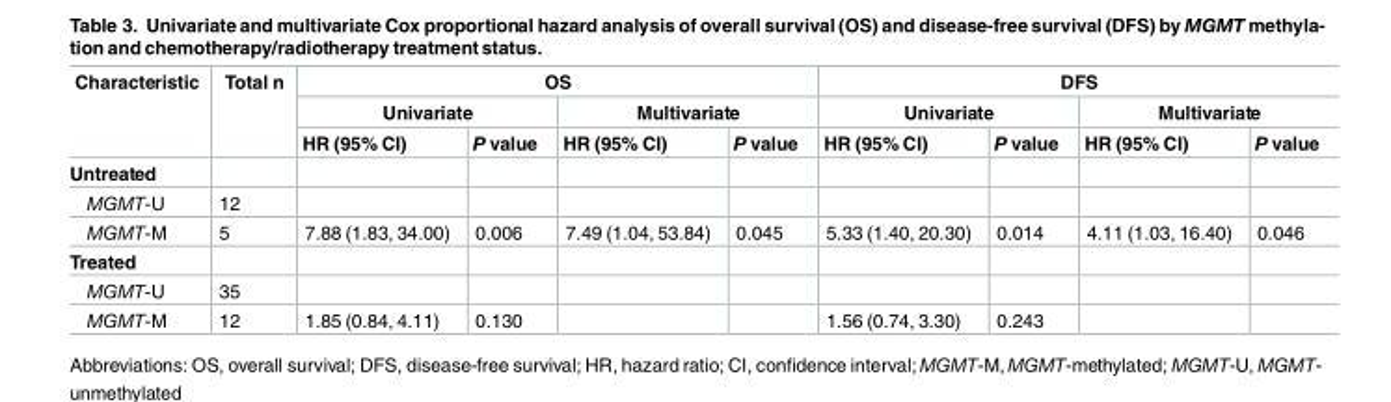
<table><thead><tr><td rowspan="3">Characteristic</td><td rowspan="3">Total n</td><td colspan="4">OS</td><td colspan="4">DFS</td></tr><tr><td colspan="2">Univariate</td><td colspan="2">Multivariate</td><td colspan="2">Univariate</td><td colspan="2">Multivariate</td></tr><tr><td>HR (95% CI)</td><td>P value</td><td>HR (95% CI)</td><td>P value</td><td>HR (95% CI)</td><td>P value</td><td>HR (95% CI)</td><td>P value</td></tr></thead><tbody><tr><td colspan="10">Untreated</td></tr><tr><td>MGMT-U</td><td>12</td><td></td><td></td><td></td><td></td><td></td><td></td><td></td><td></td></tr><tr><td>MGMT-M</td><td>5</td><td>7.88 (1.83, 34.00)</td><td>0.006</td><td>7.49 (1.04, 53.84)</td><td>0.045</td><td>5.33 (1.40, 20.30)</td><td>0.014</td><td>4.11 (1.03, 16.40)</td><td>0.046</td></tr><tr><td colspan="10">Treated</td></tr><tr><td>MGMT-U</td><td>35</td><td></td><td></td><td></td><td></td><td></td><td></td><td></td><td></td></tr><tr><td>MGMT-M</td><td>12</td><td>1.85 (0.84, 4.11)</td><td>0.130</td><td></td><td></td><td>1.56 (0.74, 3.30)</td><td>0.243</td><td></td><td></td></tr></tbody></table>